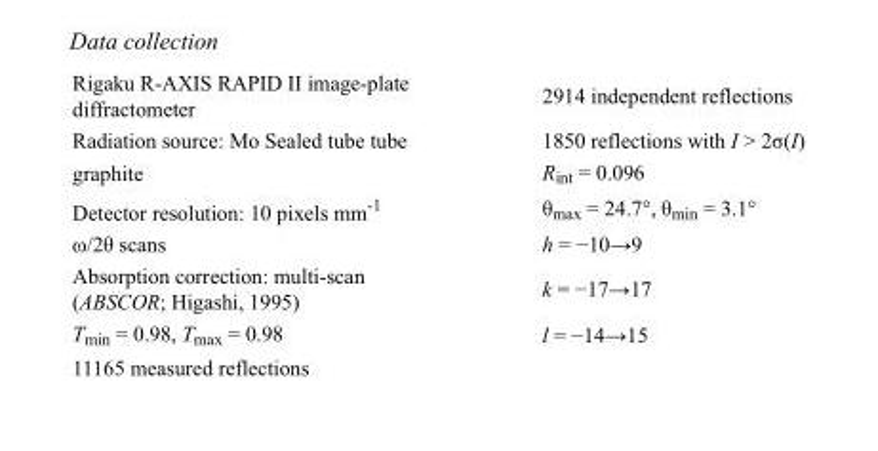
<table><tbody><tr><td>Rigaku R-AXIS RAPID II image-plate diffractometer</td><td>2914 independent reflections</td></tr><tr><td>Radiation source: Mo Sealed tube tube</td><td>1850 reflections with I &gt; 2σ(I)</td></tr><tr><td>graphite</td><td>R<sub>int</sub> = 0.096</td></tr><tr><td>Detector resolution: 10 pixels mm<sup>-1</sup></td><td>θ<sub>max</sub> = 24.7°, θ<sub>min</sub> = 3.1°</td></tr><tr><td>ω/2θ scans</td><td>h = −10→9</td></tr><tr><td>Absorption correction: multi-scan (ABSCOR; Higashi, 1995)</td><td>k = −17→17</td></tr><tr><td>T<sub>min</sub> = 0.98, T<sub>max</sub> = 0.98</td><td>l = −14→15</td></tr><tr><td>11165 measured reflections</td><td></td></tr></tbody></table>